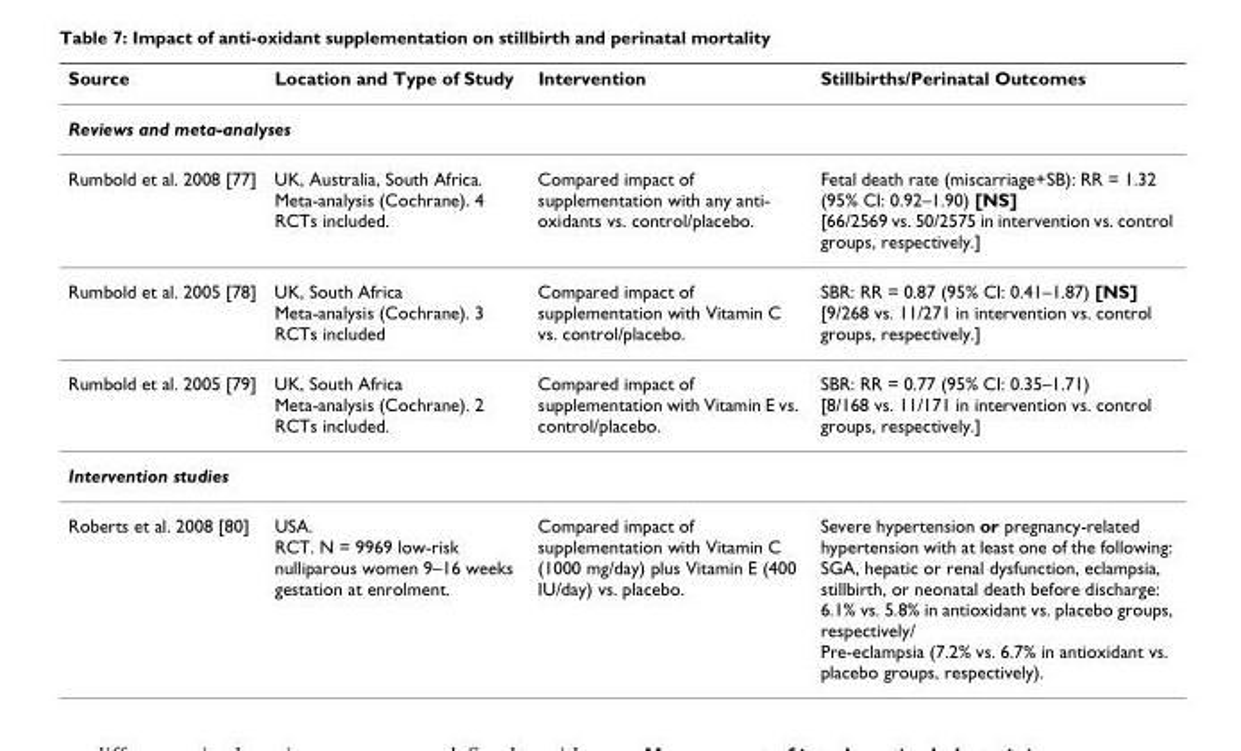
<table><thead><tr><td>Source</td><td>Location and Type of Study</td><td>Intervention</td><td>Stillbirths/Perinatal Outcomes</td></tr></thead><tbody><tr><td colspan="4">Reviews and meta-analyses</td></tr><tr><td>Rumbold et al. 2008 [77]</td><td>UK, Australia, South Africa. Meta-analysis (Cochrane). 4 RCTs included.</td><td>Compared impact of supplementation with any anti- oxidants vs. control/placebo.</td><td>Fetal death rate (miscarriage+SB): RR = 1.32 (95% CI: 0.92–1.90) [NS] [66/2569 vs. 50/2575 in intervention vs. control groups, respectively.]</td></tr><tr><td>Rumbold et al. 2005 [78]</td><td>UK, South Africa Meta-analysis (Cochrane). 3 RCTs included</td><td>Compared impact of supplementation with Vitamin C vs. control/placebo.</td><td>SBR: RR = 0.87 (95% CI: 0.41–1.87) [NS] [9/268 vs. 11/271 in intervention vs. control groups, respectively.]</td></tr><tr><td>Rumbold et al. 2005 [79]</td><td>UK, South Africa Meta-analysis (Cochrane). 2 RCTs included.</td><td>Compared impact of supplementation with Vitamin E vs. control/placebo.</td><td>SBR: RR = 0.77 (95% CI: 0.35–1.71) [8/168 vs. 11/171 in intervention vs. control groups, respectively.]</td></tr><tr><td colspan="4">Intervention studies</td></tr><tr><td>Roberts et al. 2008 [80]</td><td>USA. RCT. N = 9969 low-risk nulliparous women 9–16 weeks gestation at enrolment.</td><td>Compared impact of supplementation with Vitamin C (1000 mg/day) plus Vitamin E (400 IU/day) vs. placebo.</td><td>Severe hypertension or pregnancy-related hypertension with at least one of the following: SGA, hepatic or renal dysfunction, eclampsia, stillbirth, or neonatal death before discharge: 6.1% vs. 5.8% in antioxidant vs. placebo groups, respectively/ Pre-eclampsia (7.2% vs. 6.7% in antioxidant vs. placebo groups, respectively).</td></tr></tbody></table>